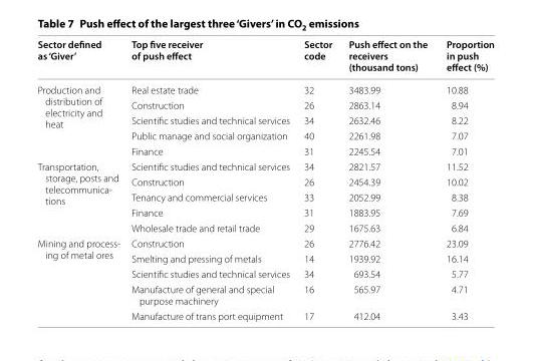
<table><thead><tr><td>Sector defined as ‘Giver’</td><td>Top five receiver of push effect</td><td>Sector code</td><td>Push effect on the receivers (thousand tons)</td><td>Proportion in push effect (%)</td></tr></thead><tbody><tr><td rowspan="5">Production and distribution of electricity and heat</td><td>Real estate trade</td><td>32</td><td>3483.99</td><td>10.88</td></tr><tr><td>Construction</td><td>26</td><td>2863.14</td><td>8.94</td></tr><tr><td>Scientific studies and technical services</td><td>34</td><td>2632.46</td><td>8.22</td></tr><tr><td>Public manage and social organization</td><td>40</td><td>2261.98</td><td>7.07</td></tr><tr><td>Finance</td><td>31</td><td>2245.54</td><td>7.01</td></tr><tr><td rowspan="5">Transportation, storage, posts and telecommunica- tions</td><td>Scientific studies and technical services</td><td>34</td><td>2821.57</td><td>11.52</td></tr><tr><td>Construction</td><td>26</td><td>2454.39</td><td>10.02</td></tr><tr><td>Tenancy and commercial services</td><td>33</td><td>2052.99</td><td>8.38</td></tr><tr><td>Finance</td><td>31</td><td>1883.95</td><td>7.69</td></tr><tr><td>Wholesale trade and retail trade</td><td>29</td><td>1675.63</td><td>6.84</td></tr><tr><td rowspan="5">Mining and process- ing of metal ores</td><td>Construction</td><td>26</td><td>2776.42</td><td>23.09</td></tr><tr><td>Smelting and pressing of metals</td><td>14</td><td>1939.92</td><td>16.14</td></tr><tr><td>Scientific studies and technical services</td><td>34</td><td>693.54</td><td>5.77</td></tr><tr><td>Manufacture of general and special purpose machinery</td><td>16</td><td>565.97</td><td>4.71</td></tr><tr><td>Manufacture of trans port equipment</td><td>17</td><td>412.04</td><td>3.43</td></tr></tbody></table>